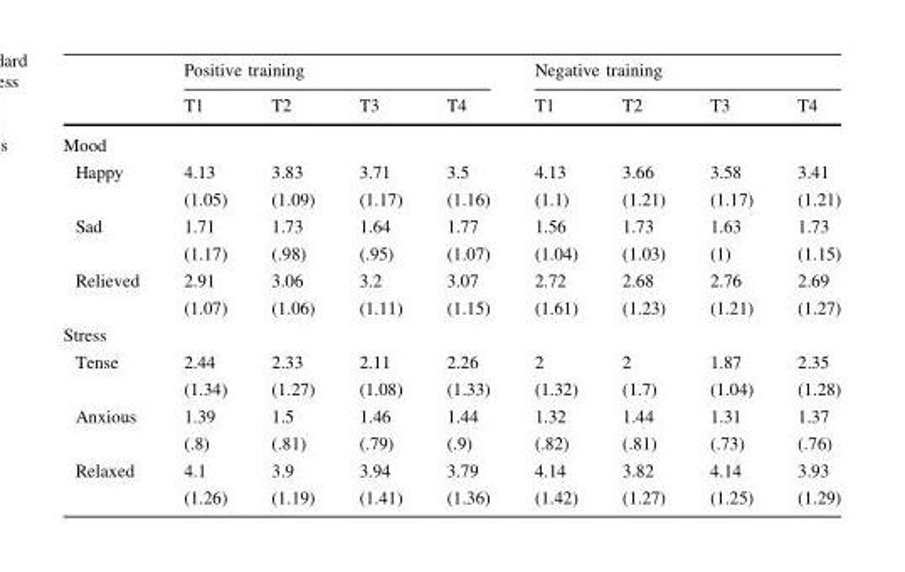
<table><thead><tr><td rowspan="2"></td><td colspan="4">Positive training</td><td colspan="4">Negative training</td></tr><tr><td>T1</td><td>T2</td><td>T3</td><td>T4</td><td>T1</td><td>T2</td><td>T3</td><td>T4</td></tr></thead><tbody><tr><td colspan="9">Mood</td></tr><tr><td rowspan="2">Happy</td><td>4.13</td><td>3.83</td><td>3.71</td><td>3.5</td><td>4.13</td><td>3.66</td><td>3.58</td><td>3.41</td></tr><tr><td>(1.05)</td><td>(1.09)</td><td>(1.17)</td><td>(1.16)</td><td>(1.1)</td><td>(1.21)</td><td>(1.17)</td><td>(1.21)</td></tr><tr><td rowspan="2">Sad</td><td>1.71</td><td>1.73</td><td>1.64</td><td>1.77</td><td>1.56</td><td>1.73</td><td>1.63</td><td>1.73</td></tr><tr><td>(1.17)</td><td>(.98)</td><td>(.95)</td><td>(1.07)</td><td>(1.04)</td><td>(1.03)</td><td>(1)</td><td>(1.15)</td></tr><tr><td rowspan="2">Relieved</td><td>2.91</td><td>3.06</td><td>3.2</td><td>3.07</td><td>2.72</td><td>2.68</td><td>2.76</td><td>2.69</td></tr><tr><td>(1.07)</td><td>(1.06)</td><td>(1.11)</td><td>(1.15)</td><td>(1.61)</td><td>(1.23)</td><td>(1.21)</td><td>(1.27)</td></tr><tr><td colspan="9">Stress</td></tr><tr><td rowspan="2">Tense</td><td>2.44</td><td>2.33</td><td>2.11</td><td>2.26</td><td>2</td><td>2</td><td>1.87</td><td>2.35</td></tr><tr><td>(1.34)</td><td>(1.27)</td><td>(1.08)</td><td>(1.33)</td><td>(1.32)</td><td>(1.7)</td><td>(1.04)</td><td>(1.28)</td></tr><tr><td rowspan="2">Anxious</td><td>1.39</td><td>1.5</td><td>1.46</td><td>1.44</td><td>1.32</td><td>1.44</td><td>1.31</td><td>1.37</td></tr><tr><td>(.8)</td><td>(.81)</td><td>(.79)</td><td>(.9)</td><td>(.82)</td><td>(.81)</td><td>(.73)</td><td>(.76)</td></tr><tr><td rowspan="2">Relaxed</td><td>4.1</td><td>3.9</td><td>3.94</td><td>3.79</td><td>4.14</td><td>3.82</td><td>4.14</td><td>3.93</td></tr><tr><td>(1.26)</td><td>(1.19)</td><td>(1.41)</td><td>(1.36)</td><td>(1.42)</td><td>(1.27)</td><td>(1.25)</td><td>(1.29)</td></tr></tbody></table>